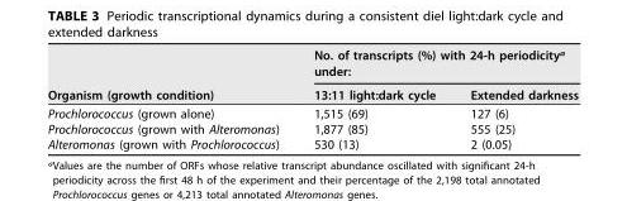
<table><thead><tr><td rowspan="2">Organism (growth condition)</td><td colspan="2">No. of transcripts (%) with 24-h periodicity<sup>a</sup> under:</td></tr><tr><td>13:11 light:dark cycle</td><td>Extended darkness</td></tr></thead><tbody><tr><td>Prochlorococcus (grown alone)</td><td>1,515 (69)</td><td>127 (6)</td></tr><tr><td>Prochlorococcus (grown with Alteromonas)</td><td>1,877 (85)</td><td>555 (25)</td></tr><tr><td>Alteromonas (grown with Prochlorococcus)</td><td>530 (13)</td><td>2 (0.05)</td></tr></tbody></table>